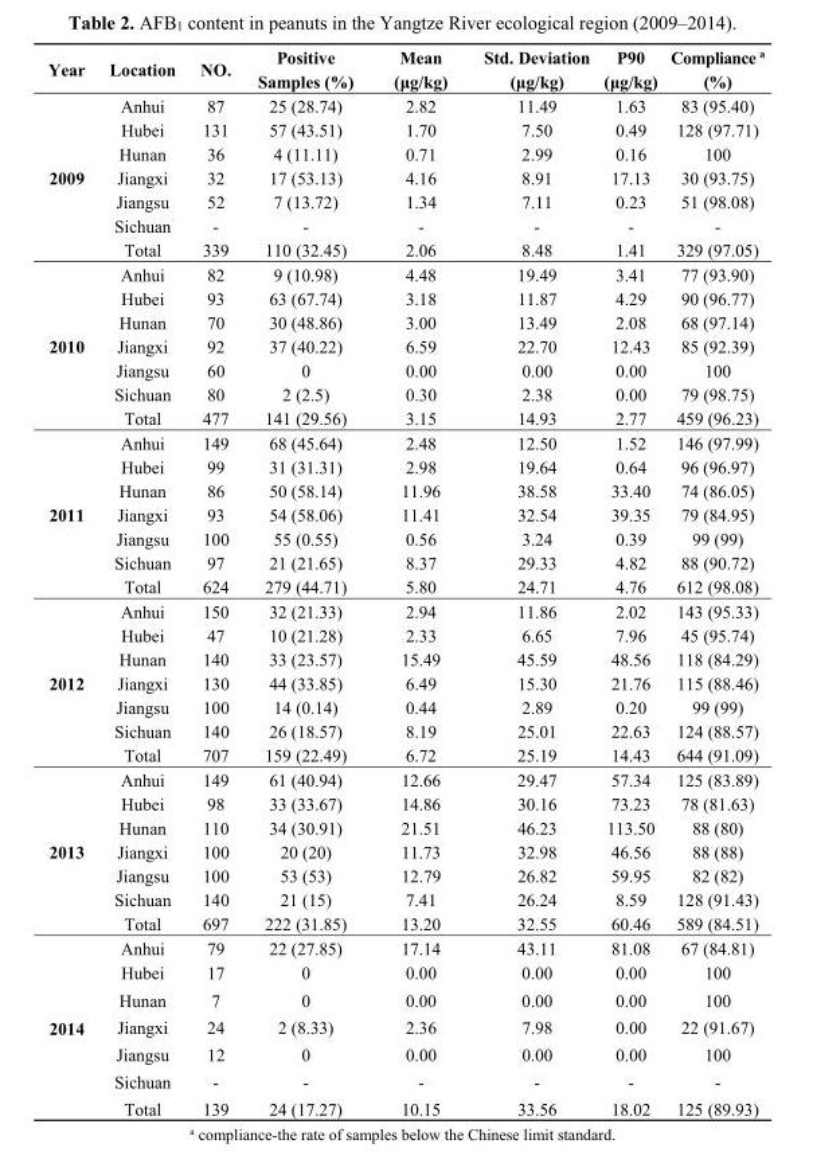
<table><thead><tr><td>Year</td><td>Location</td><td>NO.</td><td>Positive Samples (%)</td><td>Mean (μg/kg)</td><td>Std. Deviation (μg/kg)</td><td>P90 (μg/kg)</td><td>Compliance <sup>a</sup> (%)</td></tr></thead><tbody><tr><td rowspan="7">2009</td><td>Anhui</td><td>87</td><td>25 (28.74)</td><td>2.82</td><td>11.49</td><td>1.63</td><td>83 (95.40)</td></tr><tr><td>Hubei</td><td>131</td><td>57 (43.51)</td><td>1.70</td><td>7.50</td><td>0.49</td><td>128 (97.71)</td></tr><tr><td>Hunan</td><td>36</td><td>4 (11.11)</td><td>0.71</td><td>2.99</td><td>0.16</td><td>100</td></tr><tr><td>Jiangxi</td><td>32</td><td>17 (53.13)</td><td>4.16</td><td>8.91</td><td>17.13</td><td>30 (93.75)</td></tr><tr><td>Jiangsu</td><td>52</td><td>7 (13.72)</td><td>1.34</td><td>7.11</td><td>0.23</td><td>51 (98.08)</td></tr><tr><td>Sichuan</td><td>-</td><td>-</td><td>-</td><td>-</td><td>-</td><td>-</td></tr><tr><td>Total</td><td>339</td><td>110 (32.45)</td><td>2.06</td><td>8.48</td><td>1.41</td><td>329 (97.05)</td></tr><tr><td rowspan="7">2010</td><td>Anhui</td><td>82</td><td>9 (10.98)</td><td>4.48</td><td>19.49</td><td>3.41</td><td>77 (93.90)</td></tr><tr><td>Hubei</td><td>93</td><td>63 (67.74)</td><td>3.18</td><td>11.87</td><td>4.29</td><td>90 (96.77)</td></tr><tr><td>Hunan</td><td>70</td><td>30 (48.86)</td><td>3.00</td><td>13.49</td><td>2.08</td><td>68 (97.14)</td></tr><tr><td>Jiangxi</td><td>92</td><td>37 (40.22)</td><td>6.59</td><td>22.70</td><td>12.43</td><td>85 (92.39)</td></tr><tr><td>Jiangsu</td><td>60</td><td>0</td><td>0.00</td><td>0.00</td><td>0.00</td><td>100</td></tr><tr><td>Sichuan</td><td>80</td><td>2 (2.5)</td><td>0.30</td><td>2.38</td><td>0.00</td><td>79 (98.75)</td></tr><tr><td>Total</td><td>477</td><td>141 (29.56)</td><td>3.15</td><td>14.93</td><td>2.77</td><td>459 (96.23)</td></tr><tr><td rowspan="7">2011</td><td>Anhui</td><td>149</td><td>68 (45.64)</td><td>2.48</td><td>12.50</td><td>1.52</td><td>146 (97.99)</td></tr><tr><td>Hubei</td><td>99</td><td>31 (31.31)</td><td>2.98</td><td>19.64</td><td>0.64</td><td>96 (96.97)</td></tr><tr><td>Hunan</td><td>86</td><td>50 (58.14)</td><td>11.96</td><td>38.58</td><td>33.40</td><td>74 (86.05)</td></tr><tr><td>Jiangxi</td><td>93</td><td>54 (58.06)</td><td>11.41</td><td>32.54</td><td>39.35</td><td>79 (84.95)</td></tr><tr><td>Jiangsu</td><td>100</td><td>55 (0.55)</td><td>0.56</td><td>3.24</td><td>0.39</td><td>99 (99)</td></tr><tr><td>Sichuan</td><td>97</td><td>21 (21.65)</td><td>8.37</td><td>29.33</td><td>4.82</td><td>88 (90.72)</td></tr><tr><td>Total</td><td>624</td><td>279 (44.71)</td><td>5.80</td><td>24.71</td><td>4.76</td><td>612 (98.08)</td></tr><tr><td rowspan="7">2012</td><td>Anhui</td><td>150</td><td>32 (21.33)</td><td>2.94</td><td>11.86</td><td>2.02</td><td>143 (95.33)</td></tr><tr><td>Hubei</td><td>47</td><td>10 (21.28)</td><td>2.33</td><td>6.65</td><td>7.96</td><td>45 (95.74)</td></tr><tr><td>Hunan</td><td>140</td><td>33 (23.57)</td><td>15.49</td><td>45.59</td><td>48.56</td><td>118 (84.29)</td></tr><tr><td>Jiangxi</td><td>130</td><td>44 (33.85)</td><td>6.49</td><td>15.30</td><td>21.76</td><td>115 (88.46)</td></tr><tr><td>Jiangsu</td><td>100</td><td>14 (0.14)</td><td>0.44</td><td>2.89</td><td>0.20</td><td>99 (99)</td></tr><tr><td>Sichuan</td><td>140</td><td>26 (18.57)</td><td>8.19</td><td>25.01</td><td>22.63</td><td>124 (88.57)</td></tr><tr><td>Total</td><td>707</td><td>159 (22.49)</td><td>6.72</td><td>25.19</td><td>14.43</td><td>644 (91.09)</td></tr><tr><td rowspan="7">2013</td><td>Anhui</td><td>149</td><td>61 (40.94)</td><td>12.66</td><td>29.47</td><td>57.34</td><td>125 (83.89)</td></tr><tr><td>Hubei</td><td>98</td><td>33 (33.67)</td><td>14.86</td><td>30.16</td><td>73.23</td><td>78 (81.63)</td></tr><tr><td>Hunan</td><td>110</td><td>34 (30.91)</td><td>21.51</td><td>46.23</td><td>113.50</td><td>88 (80)</td></tr><tr><td>Jiangxi</td><td>100</td><td>20 (20)</td><td>11.73</td><td>32.98</td><td>46.56</td><td>88 (88)</td></tr><tr><td>Jiangsu</td><td>100</td><td>53 (53)</td><td>12.79</td><td>26.82</td><td>59.95</td><td>82 (82)</td></tr><tr><td>Sichuan</td><td>140</td><td>21 (15)</td><td>7.41</td><td>26.24</td><td>8.59</td><td>128 (91.43)</td></tr><tr><td>Total</td><td>697</td><td>222 (31.85)</td><td>13.20</td><td>32.55</td><td>60.46</td><td>589 (84.51)</td></tr><tr><td rowspan="7">2014</td><td>Anhui</td><td>79</td><td>22 (27.85)</td><td>17.14</td><td>43.11</td><td>81.08</td><td>67 (84.81)</td></tr><tr><td>Hubei</td><td>17</td><td>0</td><td>0.00</td><td>0.00</td><td>0.00</td><td>100</td></tr><tr><td>Hunan</td><td>7</td><td>0</td><td>0.00</td><td>0.00</td><td>0.00</td><td>100</td></tr><tr><td>Jiangxi</td><td>24</td><td>2 (8.33)</td><td>2.36</td><td>7.98</td><td>0.00</td><td>22 (91.67)</td></tr><tr><td>Jiangsu</td><td>12</td><td>0</td><td>0.00</td><td>0.00</td><td>0.00</td><td>100</td></tr><tr><td>Sichuan</td><td>-</td><td>-</td><td>-</td><td>-</td><td>-</td><td>-</td></tr><tr><td>Total</td><td>139</td><td>24 (17.27)</td><td>10.15</td><td>33.56</td><td>18.02</td><td>125 (89.93)</td></tr></tbody></table>